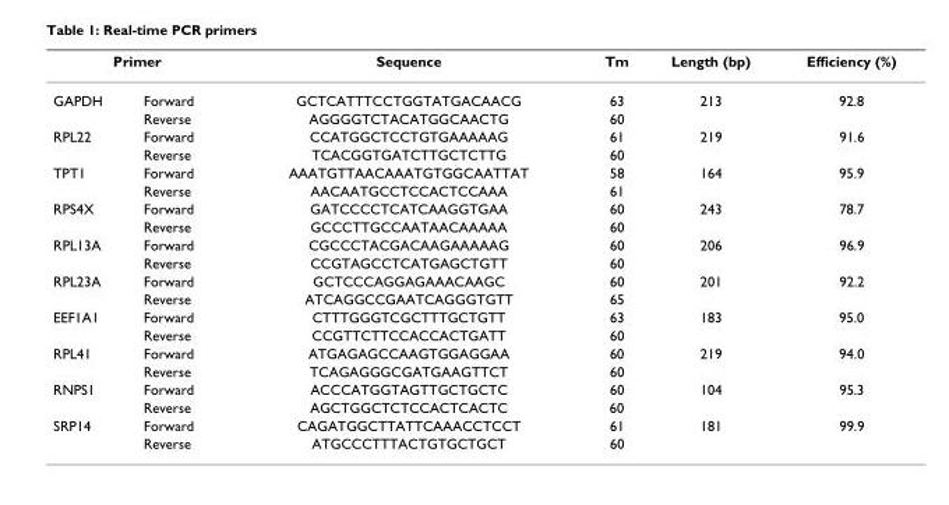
<table><thead><tr><td colspan="2">Primer</td><td rowspan="2">Sequence GCTCATTTCCTGGTATGACAACG</td><td rowspan="2">Tm 63</td><td rowspan="2">Length (bp) 213</td><td rowspan="2">Efficiency (%) 92.8</td></tr><tr><td>GAPDH</td><td>Forward</td></tr></thead><tbody><tr><td></td><td>Reverse</td><td>AGGGGTCTACATGGCAACTG</td><td>60</td><td></td><td></td></tr><tr><td rowspan="2">RPL22</td><td>Forward</td><td>CCATGGCTCCTGTGAAAAAG</td><td>61</td><td>219</td><td>91.6</td></tr><tr><td>Reverse</td><td>TCACGGTGATCTTGCTCTTG</td><td>60</td><td></td><td></td></tr><tr><td rowspan="2">TPT1</td><td>Forward</td><td>AAATGTTAACAAATGTGGCAATTAT</td><td>58</td><td>164</td><td>95.9</td></tr><tr><td>Reverse</td><td>AACAATGCCTCCACTCCAAA</td><td>61</td><td></td><td></td></tr><tr><td rowspan="2">RPS4X</td><td>Forward</td><td>GATCCCCTCATCAAGGTGAA</td><td>60</td><td>243</td><td>78.7</td></tr><tr><td>Reverse</td><td>GCCCTTGCCAATAACAAAAA</td><td>60</td><td></td><td></td></tr><tr><td rowspan="2">RPL13A</td><td>Forward</td><td>CGCCCTACGACAAGAAAAAG</td><td>60</td><td>206</td><td>96.9</td></tr><tr><td>Reverse</td><td>CCGTAGCCTCATGAGCTGTT</td><td>60</td><td></td><td></td></tr><tr><td rowspan="2">RPL23A</td><td>Forward</td><td>GCTCCCAGGAGAAACAAGC</td><td>60</td><td>201</td><td>92.2</td></tr><tr><td>Reverse</td><td>ATCAGGCCGAATCAGGGTGTT</td><td>65</td><td></td><td></td></tr><tr><td rowspan="2">EEF1A1</td><td>Forward</td><td>CTTTGGGTCGCTTTGCTGTT</td><td>63</td><td>183</td><td>95.0</td></tr><tr><td>Reverse</td><td>CCGTTCTTCCACCACTGATT</td><td>60</td><td></td><td></td></tr><tr><td rowspan="2">RPL41</td><td>Forward</td><td>ATGAGAGCCAAGTGGAGGAA</td><td>60</td><td>219</td><td>94.0</td></tr><tr><td>Reverse</td><td>TCAGAGGGCGATGAAGTTCT</td><td>60</td><td></td><td></td></tr><tr><td rowspan="2">RNPS1</td><td>Forward</td><td>ACCCATGGTAGTTGCTGCTC</td><td>60</td><td>104</td><td>95.3</td></tr><tr><td>Reverse</td><td>AGCTGGCTCTCCACTCACTC</td><td>60</td><td></td><td></td></tr><tr><td rowspan="2">SRP14</td><td>Forward</td><td>CAGATGGCTTATTCAAACCTCCT</td><td>61</td><td>181</td><td>99.9</td></tr><tr><td>Reverse</td><td>ATGCCCTTTACTGTGCTGCT</td><td>60</td><td></td><td></td></tr></tbody></table>